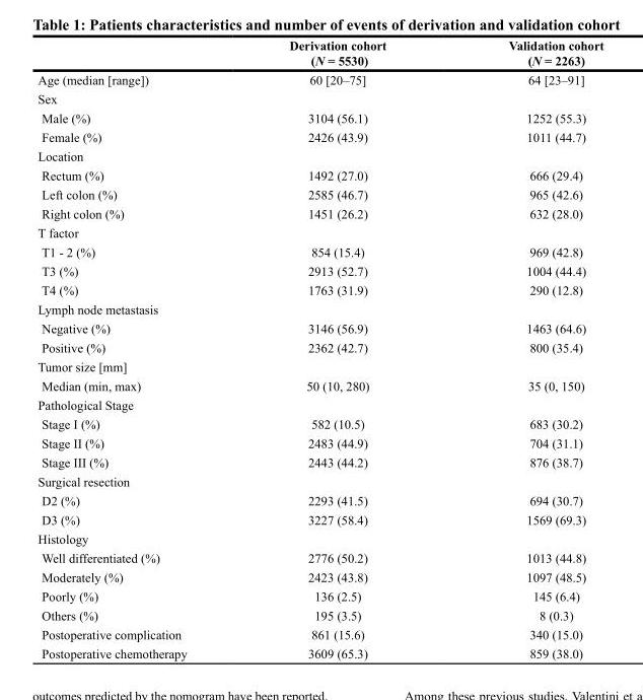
<table><thead><tr><td></td><td>Derivation cohort (N = 5530)</td><td>Validation cohort (N = 2263)</td></tr></thead><tbody><tr><td>Age (median [range])</td><td>60 [20–75]</td><td>64 [23–91]</td></tr><tr><td colspan="3">Sex</td></tr><tr><td>Male (%)</td><td>3104 (56.1)</td><td>1252 (55.3)</td></tr><tr><td>Female (%)</td><td>2426 (43.9)</td><td>1011 (44.7)</td></tr><tr><td colspan="3">Location</td></tr><tr><td>Rectum (%)</td><td>1492 (27.0)</td><td>666 (29.4)</td></tr><tr><td>Left colon (%)</td><td>2585 (46.7)</td><td>965 (42.6)</td></tr><tr><td>Right colon (%)</td><td>1451 (26.2)</td><td>632 (28.0)</td></tr><tr><td colspan="3">T factor</td></tr><tr><td>T1 - 2 (%)</td><td>854 (15.4)</td><td>969 (42.8)</td></tr><tr><td>T3 (%)</td><td>2913 (52.7)</td><td>1004 (44.4)</td></tr><tr><td>T4 (%)</td><td>1763 (31.9)</td><td>290 (12.8)</td></tr><tr><td colspan="3">Lymph node metastasis</td></tr><tr><td>Negative (%)</td><td>3146 (56.9)</td><td>1463 (64.6)</td></tr><tr><td>Positive (%)</td><td>2362 (42.7)</td><td>800 (35.4)</td></tr><tr><td colspan="3">Tumor size [mm]</td></tr><tr><td>Median (min, max)</td><td>50 (10, 280)</td><td>35 (0, 150)</td></tr><tr><td colspan="3">Pathological Stage</td></tr><tr><td>Stage I (%)</td><td>582 (10.5)</td><td>683 (30.2)</td></tr><tr><td>Stage II (%)</td><td>2483 (44.9)</td><td>704 (31.1)</td></tr><tr><td>Stage III (%)</td><td>2443 (44.2)</td><td>876 (38.7)</td></tr><tr><td colspan="3">Surgical resection</td></tr><tr><td>D2 (%)</td><td>2293 (41.5)</td><td>694 (30.7)</td></tr><tr><td>D3 (%)</td><td>3227 (58.4)</td><td>1569 (69.3)</td></tr><tr><td colspan="3">Histology</td></tr><tr><td>Well differentiated (%)</td><td>2776 (50.2)</td><td>1013 (44.8)</td></tr><tr><td>Moderately (%)</td><td>2423 (43.8)</td><td>1097 (48.5)</td></tr><tr><td>Poorly (%)</td><td>136 (2.5)</td><td>145 (6.4)</td></tr><tr><td>Others (%)</td><td>195 (3.5)</td><td>8 (0.3)</td></tr><tr><td>Postoperative complication</td><td>861 (15.6)</td><td>340 (15.0)</td></tr><tr><td>Postoperative chemotherapy</td><td>3609 (65.3)</td><td>859 (38.0)</td></tr></tbody></table>